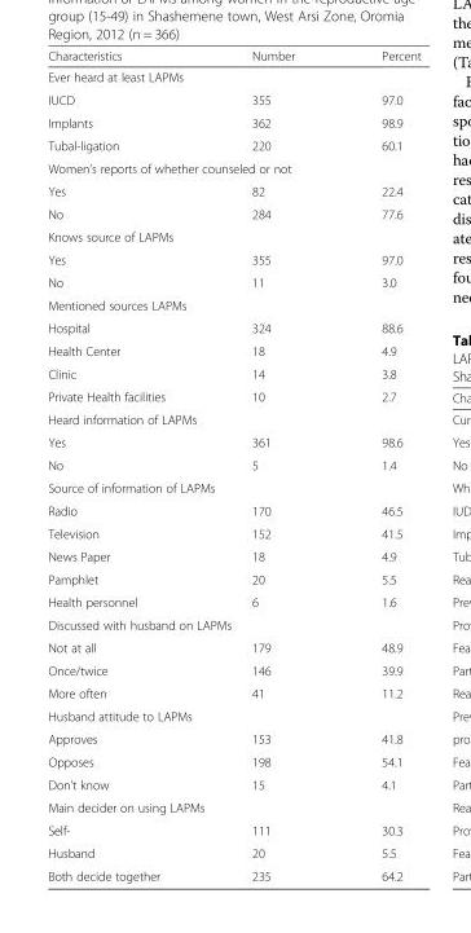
<table><thead><tr><td>Characteristics</td><td>Number</td><td>Percent</td></tr></thead><tbody><tr><td colspan="3">Ever heard at least LAPMs</td></tr><tr><td>IUCD</td><td>355</td><td>97.0</td></tr><tr><td>Implants</td><td>362</td><td>98.9</td></tr><tr><td>Tubal-ligation</td><td>220</td><td>60.1</td></tr><tr><td colspan="3">Women’s reports of whether counseled or not</td></tr><tr><td>Yes</td><td>82</td><td>22.4</td></tr><tr><td>No</td><td>284</td><td>77.6</td></tr><tr><td colspan="3">Knows source of LAPMs</td></tr><tr><td>Yes</td><td>355</td><td>97.0</td></tr><tr><td>No</td><td>11</td><td>3.0</td></tr><tr><td colspan="3">Mentioned sources LAPMs</td></tr><tr><td>Hospital</td><td>324</td><td>88.6</td></tr><tr><td>Health Center</td><td>18</td><td>4.9</td></tr><tr><td>Clinic</td><td>14</td><td>3.8</td></tr><tr><td>Private Health facilities</td><td>10</td><td>2.7</td></tr><tr><td colspan="3">Heard information of LAPMs</td></tr><tr><td>Yes</td><td>361</td><td>98.6</td></tr><tr><td>No</td><td>5</td><td>1.4</td></tr><tr><td colspan="3">Source of information of LAPMs</td></tr><tr><td>Radio</td><td>170</td><td>46.5</td></tr><tr><td>Television</td><td>152</td><td>41.5</td></tr><tr><td>News Paper</td><td>18</td><td>4.9</td></tr><tr><td>Pamphlet</td><td>20</td><td>5.5</td></tr><tr><td>Health personnel</td><td>6</td><td>1.6</td></tr><tr><td colspan="3">Discussed with husband on LAPMs</td></tr><tr><td>Not at all</td><td>179</td><td>48.9</td></tr><tr><td>Once/twice</td><td>146</td><td>39.9</td></tr><tr><td>More often</td><td>41</td><td>11.2</td></tr><tr><td colspan="3">Husband attitude to LAPMs</td></tr><tr><td>Approves</td><td>153</td><td>41.8</td></tr><tr><td>Opposes</td><td>198</td><td>54.1</td></tr><tr><td>Don’t know</td><td>15</td><td>4.1</td></tr><tr><td colspan="3">Main decider on using LAPMs</td></tr><tr><td>Self-</td><td>111</td><td>30.3</td></tr><tr><td>Husband</td><td>20</td><td>5.5</td></tr><tr><td>Both decide together</td><td>235</td><td>64.2</td></tr></tbody></table>